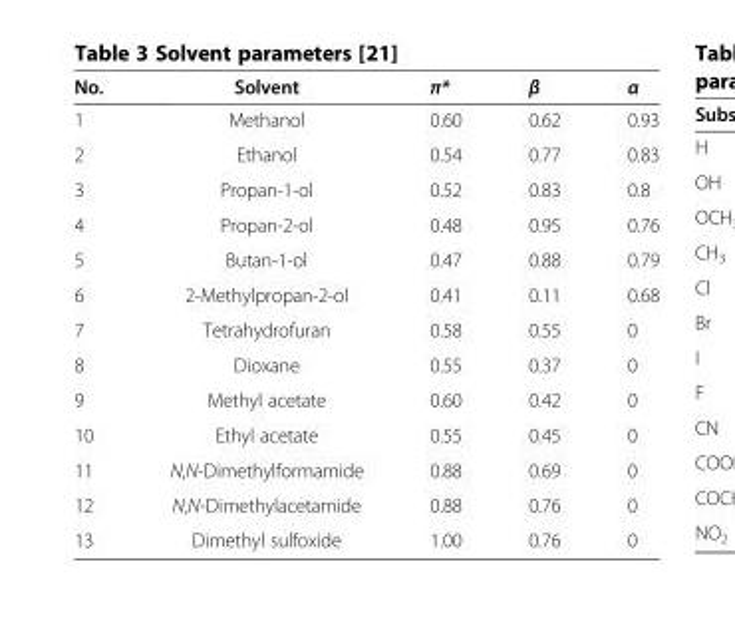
<table><thead><tr><td>No.</td><td>Solvent</td><td>π*</td><td>β</td><td>α</td></tr></thead><tbody><tr><td>1</td><td>Methanol</td><td>0.60</td><td>0.62</td><td>0.93</td></tr><tr><td>2</td><td>Ethanol</td><td>0.54</td><td>0.77</td><td>0.83</td></tr><tr><td>3</td><td>Propan-1-ol</td><td>0.52</td><td>0.83</td><td>0.8</td></tr><tr><td>4</td><td>Propan-2-ol</td><td>0.48</td><td>0.95</td><td>0.76</td></tr><tr><td>5</td><td>Butan-1-ol</td><td>0.47</td><td>0.88</td><td>0.79</td></tr><tr><td>6</td><td>2-Methylpropan-2-ol</td><td>0.41</td><td>0.11</td><td>0.68</td></tr><tr><td>7</td><td>Tetrahydrofuran</td><td>0.58</td><td>0.55</td><td>0</td></tr><tr><td>8</td><td>Dioxane</td><td>0.55</td><td>0.37</td><td>0</td></tr><tr><td>9</td><td>Methyl acetate</td><td>0.60</td><td>0.42</td><td>0</td></tr><tr><td>10</td><td>Ethyl acetate</td><td>0.55</td><td>0.45</td><td>0</td></tr><tr><td>11</td><td>N,N-Dimethylformamide</td><td>0.88</td><td>0.69</td><td>0</td></tr><tr><td>12</td><td>N,N-Dimethylacetamide</td><td>0.88</td><td>0.76</td><td>0</td></tr><tr><td>13</td><td>Dimethyl sulfoxide</td><td>1.00</td><td>0.76</td><td>0</td></tr></tbody></table>